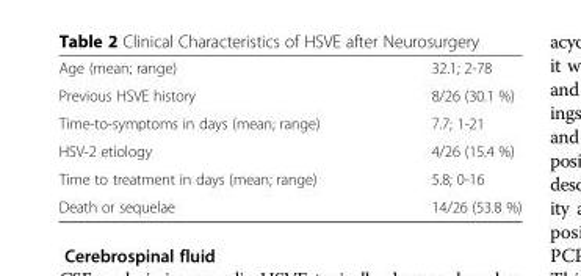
<table><tbody><tr><td>Age (mean; range)</td><td>32.1; 2-78</td></tr><tr><td>Previous HSVE history</td><td>8/26 (30.1 %)</td></tr><tr><td>Time-to-symptoms in days (mean; range)</td><td>7.7; 1-21</td></tr><tr><td>HSV-2 etiology</td><td>4/26 (15.4 %)</td></tr><tr><td>Time to treatment in days (mean; range)</td><td>5.8; 0-16</td></tr><tr><td>Death or sequelae</td><td>14/26 (53.8 %)</td></tr></tbody></table>